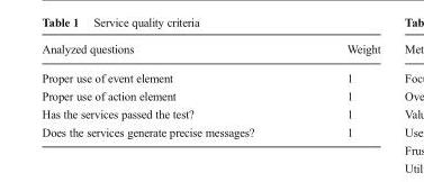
<table><thead><tr><td>Analyzed questions</td><td>Weight</td></tr></thead><tbody><tr><td>Proper use of event element</td><td>1</td></tr><tr><td>Proper use of action element</td><td>1</td></tr><tr><td>Has the services passed the test?</td><td>1</td></tr><tr><td>Does the services generate precise messages?</td><td>1</td></tr></tbody></table>